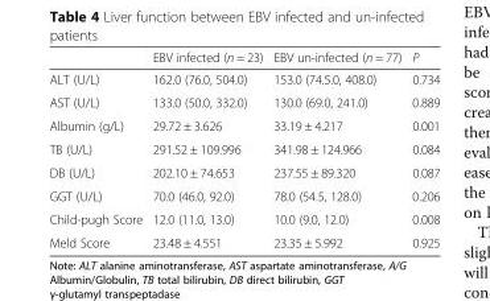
<table><thead><tr><td></td><td>EBV infected (n = 23)</td><td>EBV un-infected (n = 77)</td><td>P</td></tr></thead><tbody><tr><td>ALT (U/L)</td><td>162.0 (76.0, 504.0)</td><td>153.0 (74.5.0, 408.0)</td><td>0.734</td></tr><tr><td>AST (U/L)</td><td>133.0 (50.0, 332.0)</td><td>130.0 (69.0, 241.0)</td><td>0.889</td></tr><tr><td>Albumin (g/L)</td><td>29.72 ± 3.626</td><td>33.19 ± 4.217</td><td>0.001</td></tr><tr><td>TB (U/L)</td><td>291.52 ± 109.996</td><td>341.98 ± 124.966</td><td>0.084</td></tr><tr><td>DB (U/L)</td><td>202.10 ± 74.653</td><td>237.55 ± 89.320</td><td>0.087</td></tr><tr><td>GGT (U/L)</td><td>70.0 (46.0, 92.0)</td><td>78.0 (54.5, 128.0)</td><td>0.206</td></tr><tr><td>Child-pugh Score</td><td>12.0 (11.0, 13.0)</td><td>10.0 (9.0, 12.0)</td><td>0.008</td></tr><tr><td>Meld Score</td><td>23.48 ± 4.551</td><td>23.35 ± 5.992</td><td>0.925</td></tr></tbody></table>